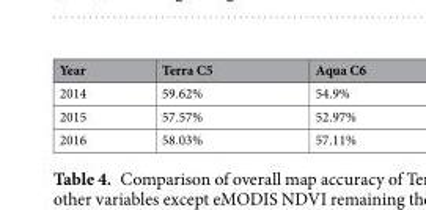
<table><thead><tr><td>Year</td><td>Terra C5</td><td>Aqua C6</td></tr></thead><tbody><tr><td>2014</td><td>59.62%</td><td>54.9%</td></tr><tr><td>2015</td><td>57.57%</td><td>52.97%</td></tr><tr><td>2016</td><td>58.03%</td><td>57.11%</td></tr></tbody></table>